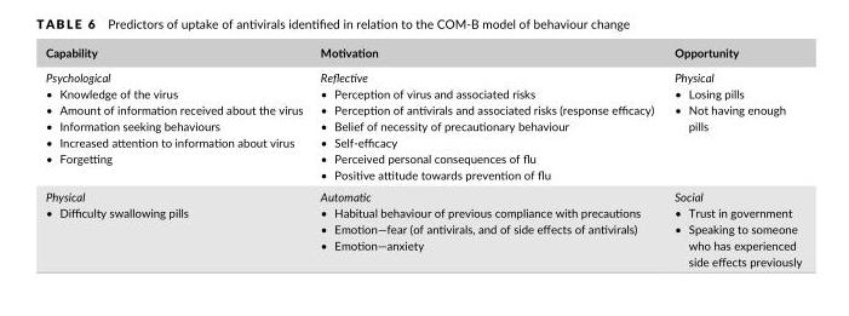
<table><thead><tr><td>Capability</td><td>Motivation</td><td>Opportunity</td></tr></thead><tbody><tr><td>Psychological • Knowledge of the virus • Amount of information received about the virus • Information seeking behaviours • Increased attention to information about virus • Forgetting</td><td>Reflective • Perception of virus and associated risks • Perception of antivirals and associated risks (response efficacy) • Belief of necessity of precautionary behaviour • Self-efficacy • Perceived personal consequences of flu • Positive attitude towards prevention of flu</td><td>Physical • Losing pills • Not having enough pills</td></tr><tr><td>Physical • Difficulty swallowing pills</td><td>Automatic • Habitual behaviour of previous compliance with precautions • Emotion—fear (of antivirals, and of side effects of antivirals) • Emotion—anxiety</td><td>Social • Trust in government • Speaking to someone who has experienced side effects previously</td></tr></tbody></table>